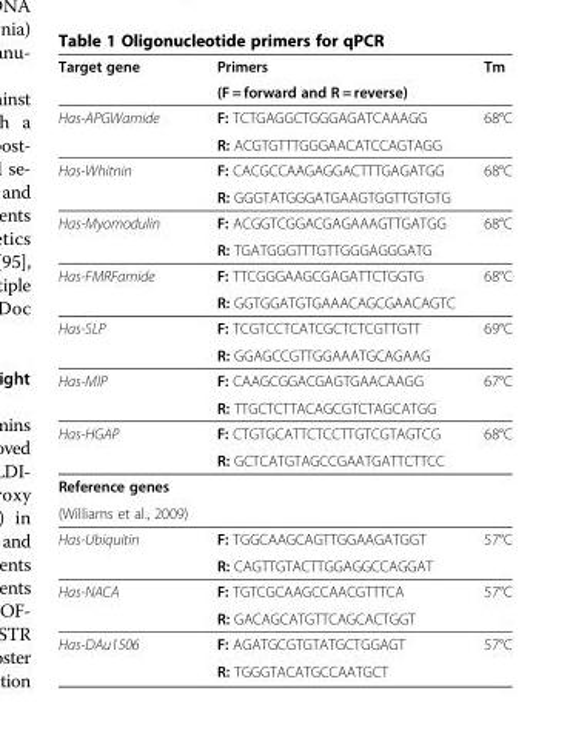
<table><thead><tr><td rowspan="2">Target gene</td><td rowspan="2">Primers (F = forward and R = reverse)</td><td rowspan="2">Tm</td></tr><tr></tr></thead><tbody><tr><td rowspan="2">Has-APGWamide</td><td>F: TCTGAGGCTGGGAGATCAAAGG</td><td>68°C</td></tr><tr><td>R: ACGTGTTTGGGAACATCCAGTAGG</td><td></td></tr><tr><td rowspan="2">Has-Whitnin</td><td>F: CACGCCAAGAGGACTTTGAGATGG</td><td>68°C</td></tr><tr><td>R: GGGTATGGGATGAAGTGGTTGTGTG</td><td></td></tr><tr><td rowspan="2">Has-Myomodulin</td><td>F: ACGGTCGGACGAGAAAGTTGATGG</td><td>68°C</td></tr><tr><td>R: TGATGGGTTTGTTGGGAGGGATG</td><td></td></tr><tr><td rowspan="2">Has-FMRFamide</td><td>F: TTCGGGAAGCGAGATTCTGGTG</td><td>68°C</td></tr><tr><td>R: GGTGGATGTGAAACAGCGAACAGTC</td><td></td></tr><tr><td rowspan="2">Has-SLP</td><td>F: TCGTCCTCATCGCTCTCGTTGTT</td><td>69°C</td></tr><tr><td>R: GGAGCCGTTGGAAATGCAGAAG</td><td></td></tr><tr><td rowspan="2">Has-MIP</td><td>F: CAAGCGGACGAGTGAACAAGG</td><td>67°C</td></tr><tr><td>R: TTGCTCTTACAGCGTCTAGCATGG</td><td></td></tr><tr><td rowspan="2">Has-HGAP</td><td>F: CTGTGCATTCTCCTTGTCGTAGTCG</td><td>68°C</td></tr><tr><td>R: GCTCATGTAGCCGAATGATTCTTCC</td><td></td></tr><tr><td colspan="3">Reference genes</td></tr><tr><td colspan="3">(Williams et al., 2009)</td></tr><tr><td rowspan="2">Has-Ubiquitin</td><td>F: TGGCAAGCAGTTGGAAGATGGT</td><td>57°C</td></tr><tr><td>R: CAGTTGTACTTGGAGGCCAGGAT</td><td></td></tr><tr><td rowspan="2">Has-NACA</td><td>F: TGTCGCAAGCCAACGTTTCA</td><td>57°C</td></tr><tr><td>R: GACAGCATGTTCAGCACTGGT</td><td></td></tr><tr><td rowspan="2">Has-DAu1506</td><td>F: AGATGCGTGTATGCTGGAGT</td><td>57°C</td></tr><tr><td>R: TGGGTACATGCCAATGCT</td><td></td></tr></tbody></table>